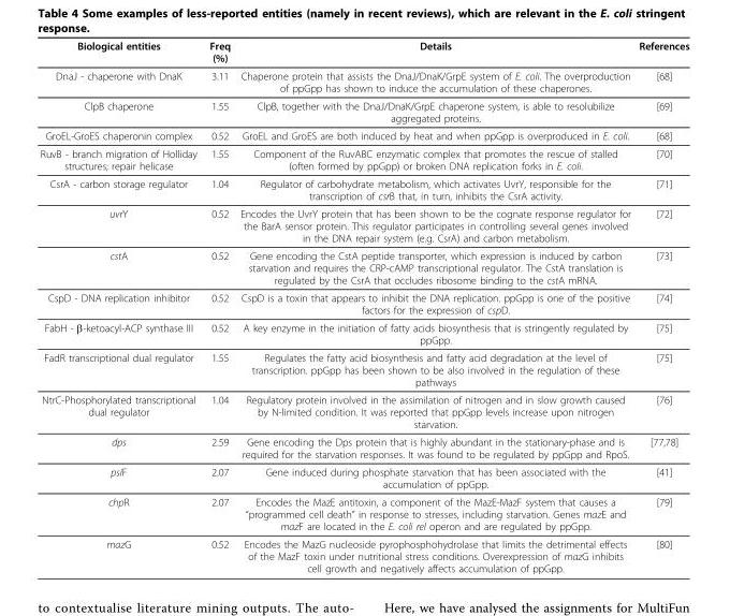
<table><thead><tr><td>Biological entities</td><td>Freq (%)</td><td>Details</td><td>References</td></tr></thead><tbody><tr><td>DnaJ - chaperone with DnaK</td><td>3.11</td><td>Chaperone protein that assists the DnaJ/DnaK/GrpE system of E. coli. The overproduction of ppGpp has shown to induce the accumulation of these chaperones.</td><td>[68]</td></tr><tr><td>ClpB chaperone</td><td>1.55</td><td>ClpB, together with the DnaJ/DnaK/GrpE chaperone system, is able to resolubilize aggregated proteins.</td><td>[69]</td></tr><tr><td>GroEL-GroES chaperonin complex</td><td>0.52</td><td>GroEL and GroES are both induced by heat and when ppGpp is overproduced in E. coli.</td><td>[68]</td></tr><tr><td>RuvB - branch migration of Holliday structures; repair helicase</td><td>1.55</td><td>Component of the RuvABC enzymatic complex that promotes the rescue of stalled (often formed by ppGpp) or broken DNA replication forks in E. coli.</td><td>[70]</td></tr><tr><td>CsrA - carbon storage regulator</td><td>1.04</td><td>Regulator of carbohydrate metabolism, which activates UvrY, responsible for the transcription of csrB that, in turn, inhibits the CsrA activity.</td><td>[71]</td></tr><tr><td>uvrY</td><td>0.52</td><td>Encodes the UvrY protein that has been shown to be the cognate response regulator for the BarA sensor protein. This regulator participates in controlling several genes involved in the DNA repair system (e.g. CsrA) and carbon metabolism.</td><td>[72]</td></tr><tr><td>cstA</td><td>0.52</td><td>Gene encoding the CstA peptide transporter, which expression is induced by carbon starvation and requires the CRP-cAMP transcriptional regulator. The CstA translation is regulated by the CsrA that occludes ribosome binding to the cstA mRNA.</td><td>[73]</td></tr><tr><td>CspD - DNA replication inhibitor</td><td>0.52</td><td>CspD is a toxin that appears to inhibit the DNA replication. ppGpp is one of the positive factors for the expression of cspD.</td><td>[74]</td></tr><tr><td>FabH - β-ketoacyl-ACP synthase III</td><td>0.52</td><td>A key enzyme in the initiation of fatty acids biosynthesis that is stringently regulated by ppGpp.</td><td>[75]</td></tr><tr><td>FadR transcriptional dual regulator</td><td>1.55</td><td>Regulates the fatty acid biosynthesis and fatty acid degradation at the level of transcription. ppGpp has been shown to be also involved in the regulation of these pathways</td><td>[75]</td></tr><tr><td>NtrC-Phosphorylated transcriptional dual regulator</td><td>1.04</td><td>Regulatory protein involved in the assimilation of nitrogen and in slow growth caused by N-limited condition. It was reported that ppGpp levels increase upon nitrogen starvation.</td><td>[76]</td></tr><tr><td>dps</td><td>2.59</td><td>Gene encoding the Dps protein that is highly abundant in the stationary-phase and is required for the starvation responses. It was found to be regulated by ppGpp and RpoS.</td><td>[77,78]</td></tr><tr><td>psiF</td><td>2.07</td><td>Gene induced during phosphate starvation that has been associated with the accumulation of ppGpp.</td><td>[41]</td></tr><tr><td>chpR</td><td>2.07</td><td>Encodes the MazE antitoxin, a component of the MazE-MazF system that causes a “programmed cell death” in response to stresses, including starvation. Genes mazE and mazF are located in the E. coli rel operon and are regulated by ppGpp.</td><td>[79]</td></tr><tr><td>mazG</td><td>0.52</td><td>Encodes the MazG nucleoside pyrophosphohydrolase that limits the detrimental effects of the MazF toxin under nutritional stress conditions. Overexpression of mazG inhibits cell growth and negatively affects accumulation of ppGpp.</td><td>[80]</td></tr></tbody></table>